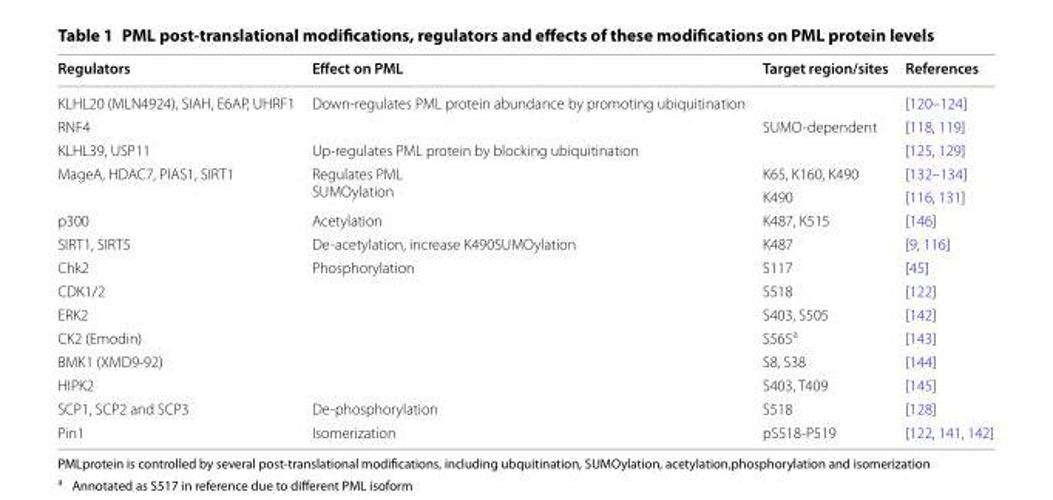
<table><thead><tr><td>Regulators</td><td>Effect on PML</td><td>Target region/sites</td><td>References</td></tr></thead><tbody><tr><td>KLHL20 (MLN4924), SIAH, E6AP, UHRF1</td><td>Down‑regulates PML protein abundance by promoting ubiquitination</td><td></td><td>[120–124]</td></tr><tr><td>RNF4</td><td></td><td>SUMO‑dependent</td><td>[118, 119]</td></tr><tr><td>KLHL39, USP11</td><td>Up‑regulates PML protein by blocking ubiquitination</td><td></td><td>[125, 129]</td></tr><tr><td rowspan="2">MageA, HDAC7, PIAS1, SIRT1</td><td rowspan="2">Regulates PML SUMOylation</td><td>K65, K160, K490</td><td>[132–134]</td></tr><tr><td>K490</td><td>[116, 131]</td></tr><tr><td>p300</td><td>Acetylation</td><td>K487, K515</td><td>[146]</td></tr><tr><td>SIRT1, SIRT5</td><td>De‑acetylation, increase K490SUMOylation</td><td>K487</td><td>[9, 116]</td></tr><tr><td>Chk2</td><td rowspan="6">Phosphorylation</td><td>S117</td><td>[45]</td></tr><tr><td>CDK1/2</td><td>S518</td><td>[122]</td></tr><tr><td>ERK2</td><td>S403, S505</td><td>[142]</td></tr><tr><td>CK2 (Emodin)</td><td>S565<sup>a</sup></td><td>[143]</td></tr><tr><td>BMK1 (XMD9‑92)</td><td>S8, S38</td><td>[144]</td></tr><tr><td>HIPK2</td><td>S403, T409</td><td>[145]</td></tr><tr><td>SCP1, SCP2 and SCP3</td><td>De‑phosphorylation</td><td>S518</td><td>[128]</td></tr><tr><td>Pin1</td><td>Isomerization</td><td>pS518‑P519</td><td>[122, 141, 142]</td></tr></tbody></table>